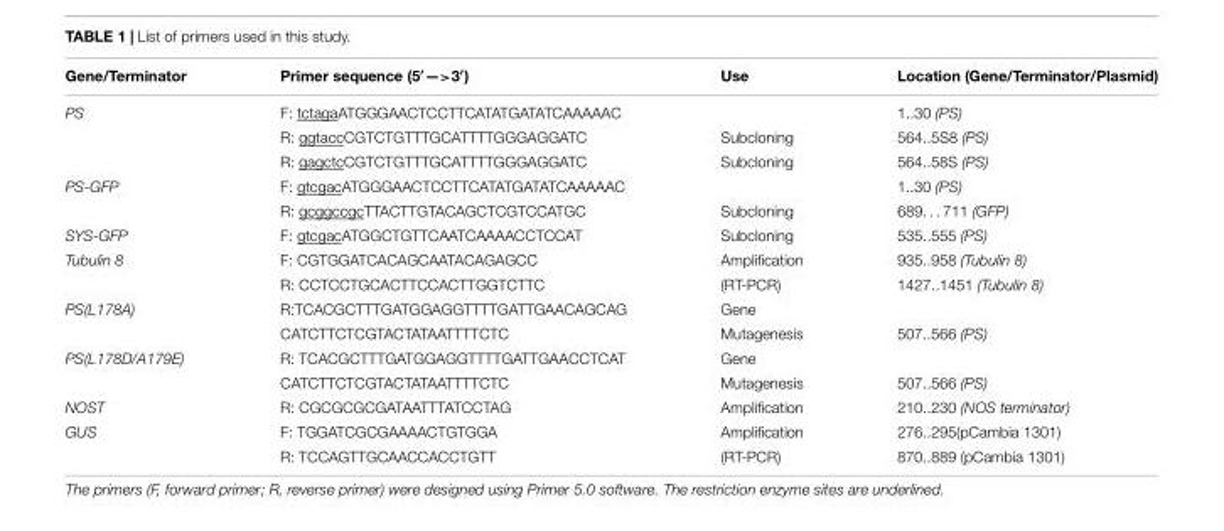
<table><thead><tr><td>Gene/Terminator</td><td>Primer sequence (5′—&gt;3′)</td><td>Use</td><td>Location (Gene/Terminator/Plasmid)</td></tr></thead><tbody><tr><td rowspan="3">PS</td><td>F: tctagaATGGGAACTCCTTCATATGATATCAAAAAC</td><td></td><td>1..30 (PS)</td></tr><tr><td>R: ggtaccCGTCTGTTTGCATTTTGGGAGGATC</td><td>Subcloning</td><td>564..5S8 (PS)</td></tr><tr><td>R: gagctcCGTCTGTTTGCATTTTGGGAGGATC</td><td>Subcloning</td><td>564..58S (PS)</td></tr><tr><td rowspan="2">PS-GFP</td><td>F: gtcgacATGGGAACTCCTTCATATGATATCAAAAAC</td><td></td><td>1..30 (PS)</td></tr><tr><td>R: gcggccgcTTACTTGTACAGCTCGTCCATGC</td><td>Subcloning</td><td>689. . . 711 (GFP)</td></tr><tr><td>SYS-GFP</td><td>F: gtcgacATGGCTGTTCAATCAAAACCTCCAT</td><td>Subcloning</td><td>535..555 (PS)</td></tr><tr><td rowspan="2">Tubulin 8</td><td>F: CGTGGATCACAGCAATACAGAGCC</td><td>Amplification</td><td>935..958 (Tubulin 8)</td></tr><tr><td>R: CCTCCTGCACTTCCACTTGGTCTTC</td><td>(RT-PCR)</td><td>1427..1451 (Tubulin 8)</td></tr><tr><td rowspan="2">PS(L178A)</td><td>R:TCACGCTTTGATGGAGGTTTTGATTGAACAGCAG</td><td>Gene</td><td></td></tr><tr><td>CATCTTCTCGTACTATAATTTTCTC</td><td>Mutagenesis</td><td>507..566 (PS)</td></tr><tr><td rowspan="2">PS(L178D/A179E)</td><td>R: TCACGCTTTGATGGAGGTTTTGATTGAACCTCAT</td><td>Gene</td><td></td></tr><tr><td>CATCTTCTCGTACTATAATTTTCTC</td><td>Mutagenesis</td><td>507..566 (PS)</td></tr><tr><td>NOST</td><td>R: CGCGCGCGATAATTTATCCTAG</td><td>Amplification</td><td>210..230 (NOS terminator)</td></tr><tr><td rowspan="2">GUS</td><td>F: TGGATCGCGAAAACTGTGGA</td><td>Amplification</td><td>276..295(pCambia 1301)</td></tr><tr><td>R: TCCAGTTGCAACCACCTGTT</td><td>(RT-PCR)</td><td>870..889 (pCambia 1301)</td></tr></tbody></table>